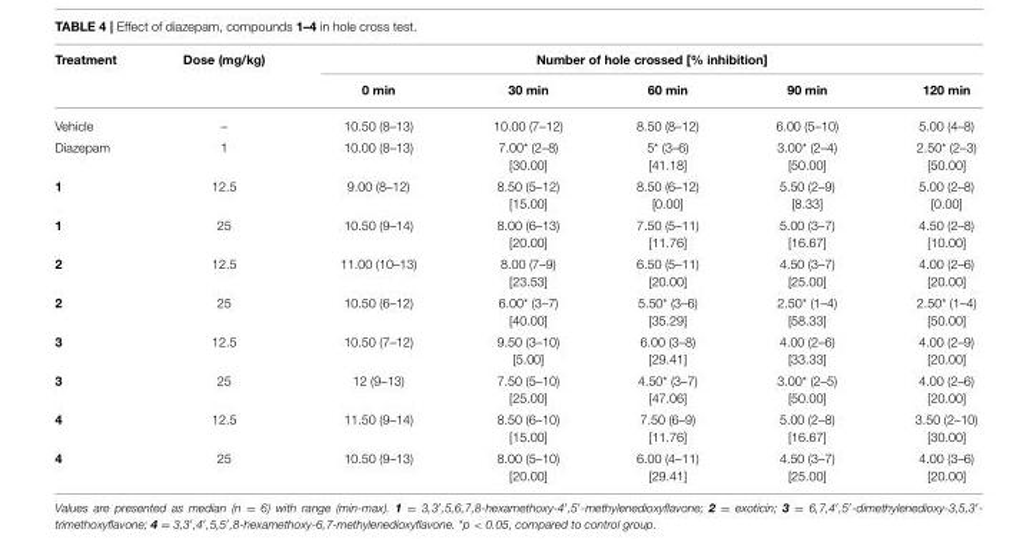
<table><thead><tr><td rowspan="2">Treatment</td><td rowspan="2">Dose (mg/kg)</td><td colspan="5">Number of hole crossed [% inhibition]</td></tr><tr><td>0 min</td><td>30 min</td><td>60 min</td><td>90 min</td><td>120 min</td></tr></thead><tbody><tr><td>Vehicle</td><td>–</td><td>10.50 (8–13)</td><td>10.00 (7–12)</td><td>8.50 (8–12)</td><td>6.00 (5–10)</td><td>5.00 (4–8)</td></tr><tr><td>Diazepam</td><td>1</td><td>10.00 (8–13)</td><td>7.00* (2–8) [30.00]</td><td>5* (3–6) [41.18]</td><td>3.00* (2–4) [50.00]</td><td>2.50* (2–3) [50.00]</td></tr><tr><td>1</td><td>12.5</td><td>9.00 (8–12)</td><td>8.50 (5–12) [15.00]</td><td>8.50 (6–12) [0.00]</td><td>5.50 (2–9) [8.33]</td><td>5.00 (2–8) [0.00]</td></tr><tr><td>1</td><td>25</td><td>10.50 (9–14)</td><td>8.00 (6–13) [20.00]</td><td>7.50 (5–11) [11.76]</td><td>5.00 (3–7) [16.67]</td><td>4.50 (2–8) [10.00]</td></tr><tr><td>2</td><td>12.5</td><td>11.00 (10–13)</td><td>8.00 (7–9) [23.53]</td><td>6.50 (5–11) [20.00]</td><td>4.50 (3–7) [25.00]</td><td>4.00 (2–6) [20.00]</td></tr><tr><td>2</td><td>25</td><td>10.50 (6–12)</td><td>6.00* (3–7) [40.00]</td><td>5.50* (3–6) [35.29]</td><td>2.50* (1–4) [58.33]</td><td>2.50* (1–4) [50.00]</td></tr><tr><td>3</td><td>12.5</td><td>10.50 (7–12)</td><td>9.50 (3–10) [5.00]</td><td>6.00 (3–8) [29.41]</td><td>4.00 (2–6) [33.33]</td><td>4.00 (2–9) [20.00]</td></tr><tr><td>3</td><td>25</td><td>12 (9–13)</td><td>7.50 (5–10) [25.00]</td><td>4.50* (3–7) [47.06]</td><td>3.00* (2–5) [50.00]</td><td>4.00 (2–6) [20.00]</td></tr><tr><td>4</td><td>12.5</td><td>11.50 (9–14)</td><td>8.50 (6–10) [15.00]</td><td>7.50 (6–9) [11.76]</td><td>5.00 (2–8) [16.67]</td><td>3.50 (2–10) [30.00]</td></tr><tr><td>4</td><td>25</td><td>10.50 (9–13)</td><td>8.00 (5–10) [20.00]</td><td>6.00 (4–11) [29.41]</td><td>4.50 (3–7) [25.00]</td><td>4.00 (3–6) [20.00]</td></tr></tbody></table>